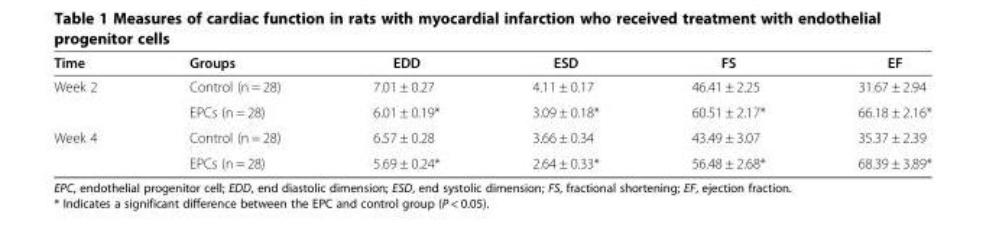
<table><thead><tr><td>Time</td><td>Groups</td><td>EDD</td><td>ESD</td><td>FS</td><td>EF</td></tr></thead><tbody><tr><td rowspan="2">Week 2</td><td>Control (n = 28)</td><td>7.01 ± 0.27</td><td>4.11 ± 0.17</td><td>46.41 ± 2.25</td><td>31.67 ± 2.94</td></tr><tr><td>EPCs (n = 28)</td><td>6.01 ± 0.19*</td><td>3.09 ± 0.18*</td><td>60.51 ± 2.17*</td><td>66.18 ± 2.16*</td></tr><tr><td rowspan="2">Week 4</td><td>Control (n = 28)</td><td>6.57 ± 0.28</td><td>3.66 ± 0.34</td><td>43.49 ± 3.07</td><td>35.37 ± 2.39</td></tr><tr><td>EPCs (n = 28)</td><td>5.69 ± 0.24*</td><td>2.64 ± 0.33*</td><td>56.48 ± 2.68*</td><td>68.39 ± 3.89*</td></tr></tbody></table>